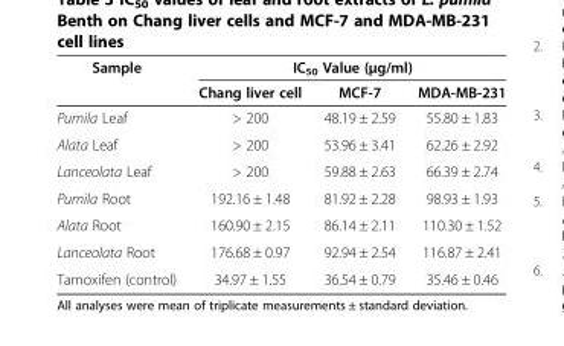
<table><thead><tr><td rowspan="2">Sample</td><td colspan="3">IC<sub>50</sub> Value (μg/ml)</td></tr><tr><td>Chang liver cell</td><td>MCF-7</td><td>MDA-MB-231</td></tr></thead><tbody><tr><td>Pumila Leaf</td><td>&gt; 200</td><td>48.19 ± 2.59</td><td>55.80 ± 1.83</td></tr><tr><td>Alata Leaf</td><td>&gt; 200</td><td>53.96 ± 3.41</td><td>62.26 ± 2.92</td></tr><tr><td>Lanceolata Leaf</td><td>&gt; 200</td><td>59.88 ± 2.63</td><td>66.39 ± 2.74</td></tr><tr><td>Pumila Root</td><td>192.16 ± 1.48</td><td>81.92 ± 2.28</td><td>98.93 ± 1.93</td></tr><tr><td>Alata Root</td><td>160.90 ± 2.15</td><td>86.14 ± 2.11</td><td>110.30 ± 1.52</td></tr><tr><td>Lanceolata Root</td><td>176.68 ± 0.97</td><td>92.94 ± 2.54</td><td>116.87 ± 2.41</td></tr><tr><td>Tamoxifen (control)</td><td>34.97 ± 1.55</td><td>36.54 ± 0.79</td><td>35.46 ± 0.46</td></tr></tbody></table>